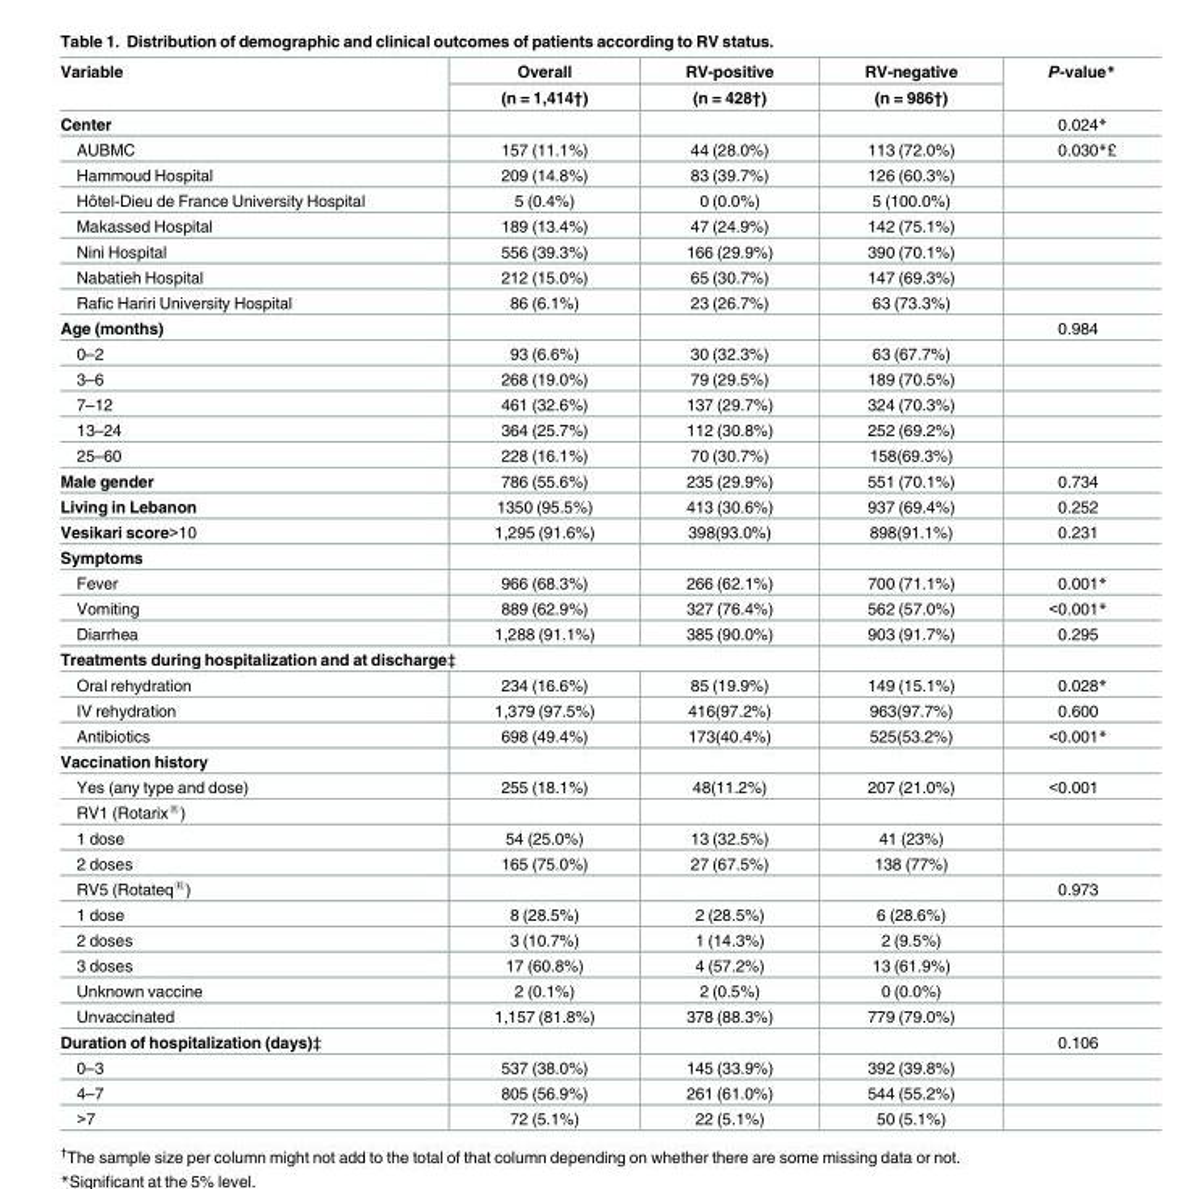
<table><thead><tr><td rowspan="2">Variable</td><td rowspan="2">Overall (n = 1,414†)</td><td rowspan="2">RV-positive (n = 428†)</td><td rowspan="2">RV-negative (n = 986†)</td><td rowspan="2">P-value*</td></tr><tr></tr></thead><tbody><tr><td>Center</td><td></td><td></td><td></td><td>0.024*</td></tr><tr><td>AUBMC</td><td>157 (11.1%)</td><td>44 (28.0%)</td><td>113 (72.0%)</td><td>0.030*£</td></tr><tr><td>Hammoud Hospital</td><td>209 (14.8%)</td><td>83 (39.7%)</td><td>126 (60.3%)</td><td></td></tr><tr><td>Hôtel-Dieu de France University Hospital</td><td>5 (0.4%)</td><td>0 (0.0%)</td><td>5 (100.0%)</td><td></td></tr><tr><td>Makassed Hospital</td><td>189 (13.4%)</td><td>47 (24.9%)</td><td>142 (75.1%)</td><td></td></tr><tr><td>Nini Hospital</td><td>556 (39.3%)</td><td>166 (29.9%)</td><td>390 (70.1%)</td><td></td></tr><tr><td>Nabatieh Hospital</td><td>212 (15.0%)</td><td>65 (30.7%)</td><td>147 (69.3%)</td><td></td></tr><tr><td>Rafic Hariri University Hospital</td><td>86 (6.1%)</td><td>23 (26.7%)</td><td>63 (73.3%)</td><td></td></tr><tr><td>Age (months)</td><td></td><td></td><td></td><td>0.984</td></tr><tr><td>0–2</td><td>93 (6.6%)</td><td>30 (32.3%)</td><td>63 (67.7%)</td><td></td></tr><tr><td>3–6</td><td>268 (19.0%)</td><td>79 (29.5%)</td><td>189 (70.5%)</td><td></td></tr><tr><td>7–12</td><td>461 (32.6%)</td><td>137 (29.7%)</td><td>324 (70.3%)</td><td></td></tr><tr><td>13–24</td><td>364 (25.7%)</td><td>112 (30.8%)</td><td>252 (69.2%)</td><td></td></tr><tr><td>25–60</td><td>228 (16.1%)</td><td>70 (30.7%)</td><td>158(69.3%)</td><td></td></tr><tr><td>Male gender</td><td>786 (55.6%)</td><td>235 (29.9%)</td><td>551 (70.1%)</td><td>0.734</td></tr><tr><td>Living in Lebanon</td><td>1350 (95.5%)</td><td>413 (30.6%)</td><td>937 (69.4%)</td><td>0.252</td></tr><tr><td>Vesikari score&gt;10</td><td>1,295 (91.6%)</td><td>398(93.0%)</td><td>898(91.1%)</td><td>0.231</td></tr><tr><td colspan="5">Symptoms</td></tr><tr><td>Fever</td><td>966 (68.3%)</td><td>266 (62.1%)</td><td>700 (71.1%)</td><td>0.001*</td></tr><tr><td>Vomiting</td><td>889 (62.9%)</td><td>327 (76.4%)</td><td>562 (57.0%)</td><td>&lt;0.001*</td></tr><tr><td>Diarrhea</td><td>1,288 (91.1%)</td><td>385 (90.0%)</td><td>903 (91.7%)</td><td>0.295</td></tr><tr><td colspan="5">Treatments during hospitalization and at discharge‡</td></tr><tr><td>Oral rehydration</td><td>234 (16.6%)</td><td>85 (19.9%)</td><td>149 (15.1%)</td><td>0.028*</td></tr><tr><td>IV rehydration</td><td>1,379 (97.5%)</td><td>416(97.2%)</td><td>963(97.7%)</td><td>0.600</td></tr><tr><td>Antibiotics</td><td>698 (49.4%)</td><td>173(40.4%)</td><td>525(53.2%)</td><td>&lt;0.001*</td></tr><tr><td colspan="5">Vaccination history</td></tr><tr><td>Yes (any type and dose)</td><td>255 (18.1%)</td><td>48(11.2%)</td><td>207 (21.0%)</td><td>&lt;0.001</td></tr><tr><td colspan="5">RV1 (Rotarix<sup>®</sup>)</td></tr><tr><td>1 dose</td><td>54 (25.0%)</td><td>13 (32.5%)</td><td>41 (23%)</td><td></td></tr><tr><td>2 doses</td><td>165 (75.0%)</td><td>27 (67.5%)</td><td>138 (77%)</td><td></td></tr><tr><td>RV5 (Rotateq<sup>®</sup>)</td><td></td><td></td><td></td><td>0.973</td></tr><tr><td>1 dose</td><td>8 (28.5%)</td><td>2 (28.5%)</td><td>6 (28.6%)</td><td></td></tr><tr><td>2 doses</td><td>3 (10.7%)</td><td>1 (14.3%)</td><td>2 (9.5%)</td><td></td></tr><tr><td>3 doses</td><td>17 (60.8%)</td><td>4 (57.2%)</td><td>13 (61.9%)</td><td></td></tr><tr><td>Unknown vaccine</td><td>2 (0.1%)</td><td>2 (0.5%)</td><td>0 (0.0%)</td><td></td></tr><tr><td>Unvaccinated</td><td>1,157 (81.8%)</td><td>378 (88.3%)</td><td>779 (79.0%)</td><td></td></tr><tr><td>Duration of hospitalization (days)‡</td><td></td><td></td><td></td><td>0.106</td></tr><tr><td>0–3</td><td>537 (38.0%)</td><td>145 (33.9%)</td><td>392 (39.8%)</td><td></td></tr><tr><td>4–7</td><td>805 (56.9%)</td><td>261 (61.0%)</td><td>544 (55.2%)</td><td></td></tr><tr><td>&gt;7</td><td>72 (5.1%)</td><td>22 (5.1%)</td><td>50 (5.1%)</td><td></td></tr></tbody></table>